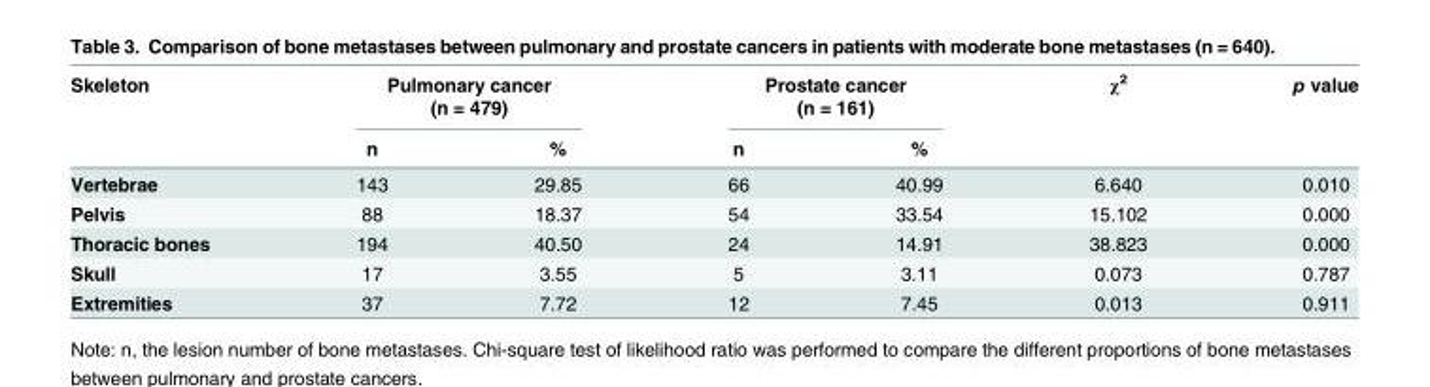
<table><thead><tr><td rowspan="2">Skeleton</td><td colspan="2">Pulmonary cancer (n = 479)</td><td colspan="2">Prostate cancer (n = 161)</td><td rowspan="2">χ<sup>2</sup></td><td rowspan="2">p value</td></tr><tr><td>n</td><td>%</td><td>n</td><td>%</td></tr></thead><tbody><tr><td>Vertebrae</td><td>143</td><td>29.85</td><td>66</td><td>40.99</td><td>6.640</td><td>0.010</td></tr><tr><td>Pelvis</td><td>88</td><td>18.37</td><td>54</td><td>33.54</td><td>15.102</td><td>0.000</td></tr><tr><td>Thoracic bones</td><td>194</td><td>40.50</td><td>24</td><td>14.91</td><td>38.823</td><td>0.000</td></tr><tr><td>Skull</td><td>17</td><td>3.55</td><td>5</td><td>3.11</td><td>0.073</td><td>0.787</td></tr><tr><td>Extremities</td><td>37</td><td>7.72</td><td>12</td><td>7.45</td><td>0.013</td><td>0.911</td></tr></tbody></table>